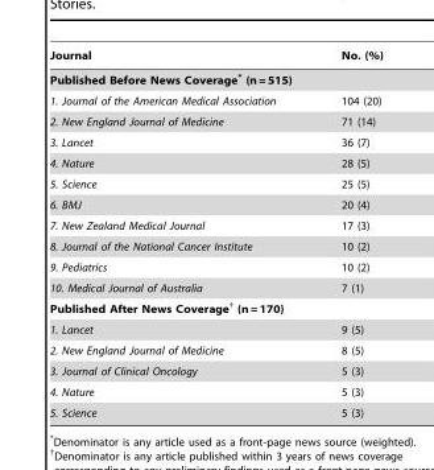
<table><thead><tr><td>Journal</td><td>No. (%)</td></tr></thead><tbody><tr><td colspan="2">Published Before News Coverage* (n = 515)</td></tr><tr><td>1. Journal of the American Medical Association</td><td>104 (20)</td></tr><tr><td>2. New England Journal of Medicine</td><td>71 (14)</td></tr><tr><td>3. Lancet</td><td>36 (7)</td></tr><tr><td>4. Nature</td><td>28 (5)</td></tr><tr><td>5. Science</td><td>25 (5)</td></tr><tr><td>6. BMJ</td><td>20 (4)</td></tr><tr><td>7. New Zealand Medical Journal</td><td>17 (3)</td></tr><tr><td>8. Journal of the National Cancer Institute</td><td>10 (2)</td></tr><tr><td>9. Pediatrics</td><td>10 (2)</td></tr><tr><td>10. Medical Journal of Australia</td><td>7 (1)</td></tr><tr><td colspan="2">Published After News Coverage† (n = 170)</td></tr><tr><td>1. Lancet</td><td>9 (5)</td></tr><tr><td>2. New England Journal of Medicine</td><td>8 (5)</td></tr><tr><td>3. Journal of Clinical Oncology</td><td>5 (3)</td></tr><tr><td>4. Nature</td><td>5 (3)</td></tr><tr><td>5. Science</td><td>5 (3)</td></tr></tbody></table>